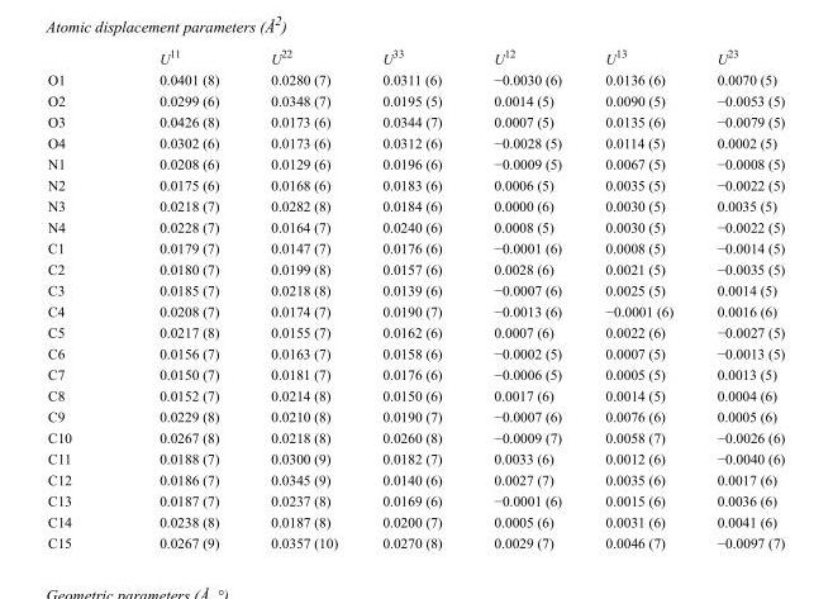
<table><thead><tr><td></td><td>U<sup>11</sup></td><td>U<sup>22</sup></td><td>U<sup>33</sup></td><td>U<sup>12</sup></td><td>U<sup>13</sup></td><td>U<sup>23</sup></td></tr></thead><tbody><tr><td>O1</td><td>0.0401 (8)</td><td>0.0280 (7)</td><td>0.0311 (6)</td><td>−0.0030 (6)</td><td>0.0136 (6)</td><td>0.0070 (5)</td></tr><tr><td>O2</td><td>0.0299 (6)</td><td>0.0348 (7)</td><td>0.0195 (5)</td><td>0.0014 (5)</td><td>0.0090 (5)</td><td>−0.0053 (5)</td></tr><tr><td>O3</td><td>0.0426 (8)</td><td>0.0173 (6)</td><td>0.0344 (7)</td><td>0.0007 (5)</td><td>0.0135 (6)</td><td>−0.0079 (5)</td></tr><tr><td>O4</td><td>0.0302 (6)</td><td>0.0173 (6)</td><td>0.0312 (6)</td><td>−0.0028 (5)</td><td>0.0114 (5)</td><td>0.0002 (5)</td></tr><tr><td>N1</td><td>0.0208 (6)</td><td>0.0129 (6)</td><td>0.0196 (6)</td><td>−0.0009 (5)</td><td>0.0067 (5)</td><td>−0.0008 (5)</td></tr><tr><td>N2</td><td>0.0175 (6)</td><td>0.0168 (6)</td><td>0.0183 (6)</td><td>0.0006 (5)</td><td>0.0035 (5)</td><td>−0.0022 (5)</td></tr><tr><td>N3</td><td>0.0218 (7)</td><td>0.0282 (8)</td><td>0.0184 (6)</td><td>0.0000 (6)</td><td>0.0030 (5)</td><td>0.0035 (5)</td></tr><tr><td>N4</td><td>0.0228 (7)</td><td>0.0164 (7)</td><td>0.0240 (6)</td><td>0.0008 (5)</td><td>0.0030 (5)</td><td>−0.0022 (5)</td></tr><tr><td>C1</td><td>0.0179 (7)</td><td>0.0147 (7)</td><td>0.0176 (6)</td><td>−0.0001 (6)</td><td>0.0008 (5)</td><td>−0.0014 (5)</td></tr><tr><td>C2</td><td>0.0180 (7)</td><td>0.0199 (8)</td><td>0.0157 (6)</td><td>0.0028 (6)</td><td>0.0021 (5)</td><td>−0.0035 (5)</td></tr><tr><td>C3</td><td>0.0185 (7)</td><td>0.0218 (8)</td><td>0.0139 (6)</td><td>−0.0007 (6)</td><td>0.0025 (5)</td><td>0.0014 (5)</td></tr><tr><td>C4</td><td>0.0208 (7)</td><td>0.0174 (7)</td><td>0.0190 (7)</td><td>−0.0013 (6)</td><td>−0.0001 (6)</td><td>0.0016 (6)</td></tr><tr><td>C5</td><td>0.0217 (8)</td><td>0.0155 (7)</td><td>0.0162 (6)</td><td>0.0007 (6)</td><td>0.0022 (6)</td><td>−0.0027 (5)</td></tr><tr><td>C6</td><td>0.0156 (7)</td><td>0.0163 (7)</td><td>0.0158 (6)</td><td>−0.0002 (5)</td><td>0.0007 (5)</td><td>−0.0013 (5)</td></tr><tr><td>C7</td><td>0.0150 (7)</td><td>0.0181 (7)</td><td>0.0176 (6)</td><td>−0.0006 (5)</td><td>0.0005 (5)</td><td>0.0013 (5)</td></tr><tr><td>C8</td><td>0.0152 (7)</td><td>0.0214 (8)</td><td>0.0150 (6)</td><td>0.0017 (6)</td><td>0.0014 (5)</td><td>0.0004 (6)</td></tr><tr><td>C9</td><td>0.0229 (8)</td><td>0.0210 (8)</td><td>0.0190 (7)</td><td>−0.0007 (6)</td><td>0.0076 (6)</td><td>0.0005 (6)</td></tr><tr><td>C10</td><td>0.0267 (8)</td><td>0.0218 (8)</td><td>0.0260 (8)</td><td>−0.0009 (7)</td><td>0.0058 (7)</td><td>−0.0026 (6)</td></tr><tr><td>C11</td><td>0.0188 (7)</td><td>0.0300 (9)</td><td>0.0182 (7)</td><td>0.0033 (6)</td><td>0.0012 (6)</td><td>−0.0040 (6)</td></tr><tr><td>C12</td><td>0.0186 (7)</td><td>0.0345 (9)</td><td>0.0140 (6)</td><td>0.0027 (7)</td><td>0.0035 (6)</td><td>0.0017 (6)</td></tr><tr><td>C13</td><td>0.0187 (7)</td><td>0.0237 (8)</td><td>0.0169 (6)</td><td>−0.0001 (6)</td><td>0.0015 (6)</td><td>0.0036 (6)</td></tr><tr><td>C14</td><td>0.0238 (8)</td><td>0.0187 (8)</td><td>0.0200 (7)</td><td>0.0005 (6)</td><td>0.0031 (6)</td><td>0.0041 (6)</td></tr><tr><td>C15</td><td>0.0267 (9)</td><td>0.0357 (10)</td><td>0.0270 (8)</td><td>0.0029 (7)</td><td>0.0046 (7)</td><td>−0.0097 (7)</td></tr></tbody></table>